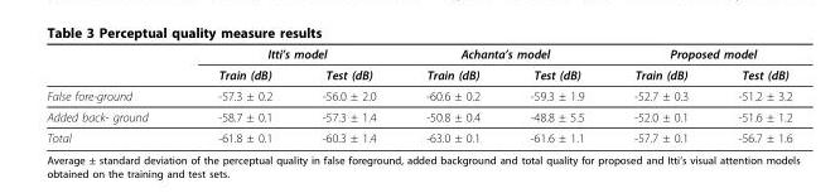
<table><thead><tr><td rowspan="2"></td><td colspan="2">Itti’s model</td><td colspan="2">Achanta’s model</td><td colspan="2">Proposed model</td></tr><tr><td>Train (dB)</td><td>Test (dB)</td><td>Train (dB)</td><td>Test (dB)</td><td>Train (dB)</td><td>Test (dB)</td></tr></thead><tbody><tr><td>False fore-ground</td><td>-57.3 ± 0.2</td><td>-56.0 ± 2.0</td><td>-60.6 ± 0.2</td><td>-59.3 ± 1.9</td><td>-52.7 ± 0.3</td><td>-51.2 ± 3.2</td></tr><tr><td>Added back- ground</td><td>-58.7 ± 0.1</td><td>-57.3 ± 1.4</td><td>-50.8 ± 0.4</td><td>-48.8 ± 5.5</td><td>-52.0 ± 0.1</td><td>-51.6 ± 1.2</td></tr><tr><td>Total</td><td>-61.8 ± 0.1</td><td>-60.3 ± 1.4</td><td>-63.0 ± 0.1</td><td>-61.6 ± 1.1</td><td>-57.7 ± 0.1</td><td>-56.7 ± 1.6</td></tr></tbody></table>